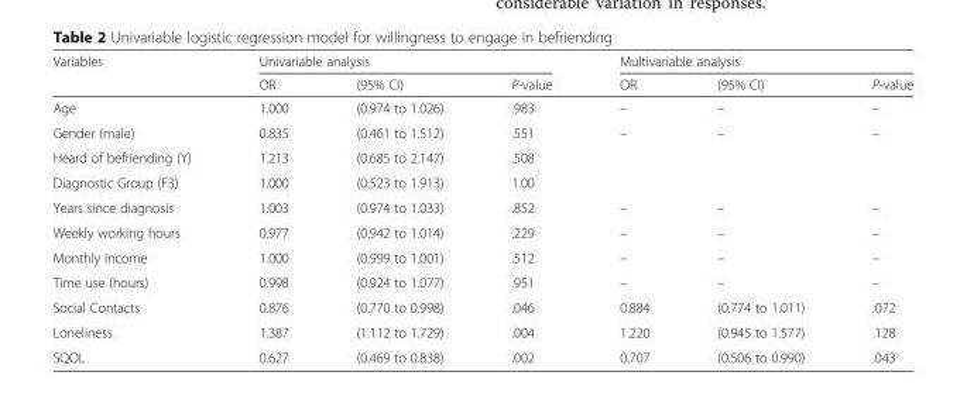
<table><thead><tr><td rowspan="2">Variables</td><td colspan="3">Univariable analysis</td><td colspan="3">Multivariable analysis</td></tr><tr><td>OR</td><td>(95% CI)</td><td>P-value</td><td>OR</td><td>(95% CI)</td><td>P-value</td></tr></thead><tbody><tr><td>Age</td><td>1.000</td><td>(0.974 to 1.026)</td><td>.983</td><td>–</td><td>–</td><td>–</td></tr><tr><td>Gender (male)</td><td>0.835</td><td>(0.461 to 1.512)</td><td>.551</td><td>–</td><td>–</td><td>–</td></tr><tr><td>Heard of befriending (Y)</td><td>1.213</td><td>(0.685 to 2.147)</td><td>.508</td><td></td><td></td><td></td></tr><tr><td>Diagnostic Group (F3)</td><td>1.000</td><td>(0.523 to 1.913)</td><td>1.00</td><td></td><td></td><td></td></tr><tr><td>Years since diagnosis</td><td>1.003</td><td>(0.974 to 1.033)</td><td>.852</td><td>–</td><td>–</td><td>–</td></tr><tr><td>Weekly working hours</td><td>0.977</td><td>(0.942 to 1.014)</td><td>.229</td><td>–</td><td>–</td><td>–</td></tr><tr><td>Monthly Income</td><td>1.000</td><td>(0.999 to 1.001)</td><td>.512</td><td>–</td><td>–</td><td>–</td></tr><tr><td>Time use (hours)</td><td>0.998</td><td>(0.924 to 1.077)</td><td>.951</td><td>–</td><td>–</td><td>–</td></tr><tr><td>Social Contacts</td><td>0.876</td><td>(0.770 to 0.998)</td><td>.046</td><td>0.884</td><td>(0.774 to 1.011)</td><td>.072</td></tr><tr><td>Loneliness</td><td>1.387</td><td>(1.112 to 1.729)</td><td>.004</td><td>1.220</td><td>(0.945 to 1.577)</td><td>.128</td></tr><tr><td>SQOL</td><td>0.627</td><td>(0.469 to 0.838)</td><td>.002</td><td>0.707</td><td>(0.506 to 0.990)</td><td>.043</td></tr></tbody></table>